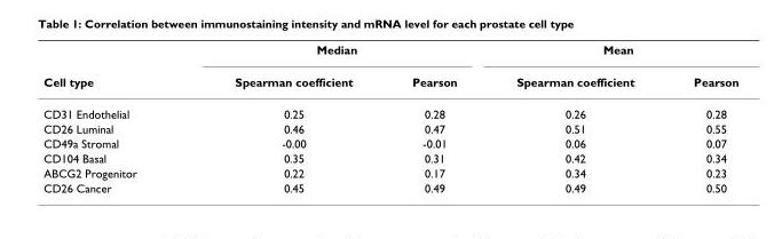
<table><thead><tr><td rowspan="2">Cell type</td><td colspan="2">Median</td><td colspan="2">Mean</td></tr><tr><td>Spearman coefficient</td><td>Pearson</td><td>Spearman coefficient</td><td>Pearson</td></tr></thead><tbody><tr><td>CD31 Endothelial</td><td>0.25</td><td>0.28</td><td>0.26</td><td>0.28</td></tr><tr><td>CD26 Luminal</td><td>0.46</td><td>0.47</td><td>0.51</td><td>0.55</td></tr><tr><td>CD49a Stromal</td><td>-0.00</td><td>-0.01</td><td>0.06</td><td>0.07</td></tr><tr><td>CD104 Basal</td><td>0.35</td><td>0.31</td><td>0.42</td><td>0.34</td></tr><tr><td>ABCG2 Progenitor</td><td>0.22</td><td>0.17</td><td>0.34</td><td>0.23</td></tr><tr><td>CD26 Cancer</td><td>0.45</td><td>0.49</td><td>0.49</td><td>0.50</td></tr></tbody></table>